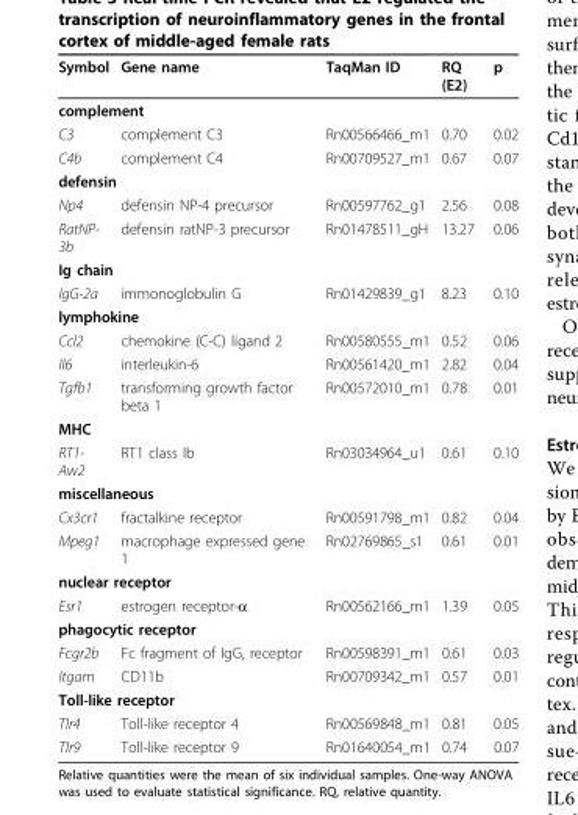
<table><thead><tr><td>Symbol</td><td>Gene name</td><td>TaqMan ID</td><td>RQ (E2)</td><td>p</td></tr></thead><tbody><tr><td colspan="5">complement</td></tr><tr><td>C3</td><td>complement C3</td><td>Rn00566466_m1</td><td>0.70</td><td>0.02</td></tr><tr><td>C4b</td><td>complement C4</td><td>Rn00709527_m1</td><td>0.67</td><td>0.07</td></tr><tr><td colspan="5">defensin</td></tr><tr><td>Np4</td><td>defensin NP-4 precursor</td><td>Rn00597762_g1</td><td>2.56</td><td>0.08</td></tr><tr><td>RatNP- 3b</td><td>defensin ratNP-3 precursor</td><td>Rn01478511_gH</td><td>13.27</td><td>0.06</td></tr><tr><td colspan="5">Ig chain</td></tr><tr><td>IgG-2a</td><td>immonoglobulin G</td><td>Rn01429839_g1</td><td>8.23</td><td>0.10</td></tr><tr><td colspan="5">lymphokine</td></tr><tr><td>Ccl2</td><td>chemokine (C-C) ligand 2</td><td>Rn00580555_m1</td><td>0.52</td><td>0.06</td></tr><tr><td>Il6</td><td>interleukin-6</td><td>Rn00561420_m1</td><td>2.82</td><td>0.04</td></tr><tr><td>Tgfb1</td><td>transforming growth factor beta 1</td><td>Rn00572010_m1</td><td>0.78</td><td>0.01</td></tr><tr><td colspan="5">MHC</td></tr><tr><td>RT1- Aw2</td><td>RT1 class Ib</td><td>Rn03034964_u1</td><td>0.61</td><td>0.10</td></tr><tr><td colspan="5">miscellaneous</td></tr><tr><td>Cx3cr1</td><td>fractalkine receptor</td><td>Rn00591798_m1</td><td>0.82</td><td>0.04</td></tr><tr><td>Mpeg1</td><td>macrophage expressed gene 1</td><td>Rn02769865_s1</td><td>0.61</td><td>0.01</td></tr><tr><td colspan="5">nuclear receptor</td></tr><tr><td>Esr1</td><td>estrogen receptor-α</td><td>Rn00562166_m1</td><td>1.39</td><td>0.05</td></tr><tr><td colspan="5">phagocytic receptor</td></tr><tr><td>Fcgr2b</td><td>Fc fragment of IgG, receptor</td><td>Rn00598391_m1</td><td>0.61</td><td>0.03</td></tr><tr><td>Itgam</td><td>CD11b</td><td>Rn00709342_m1</td><td>0.57</td><td>0.01</td></tr><tr><td colspan="5">Toll-like receptor</td></tr><tr><td>Tlr4</td><td>Toll-like receptor 4</td><td>Rn00569848_m1</td><td>0.81</td><td>0.05</td></tr><tr><td>Tlr9</td><td>Toll-like receptor 9</td><td>Rn01640054_m1</td><td>0.74</td><td>0.07</td></tr></tbody></table>